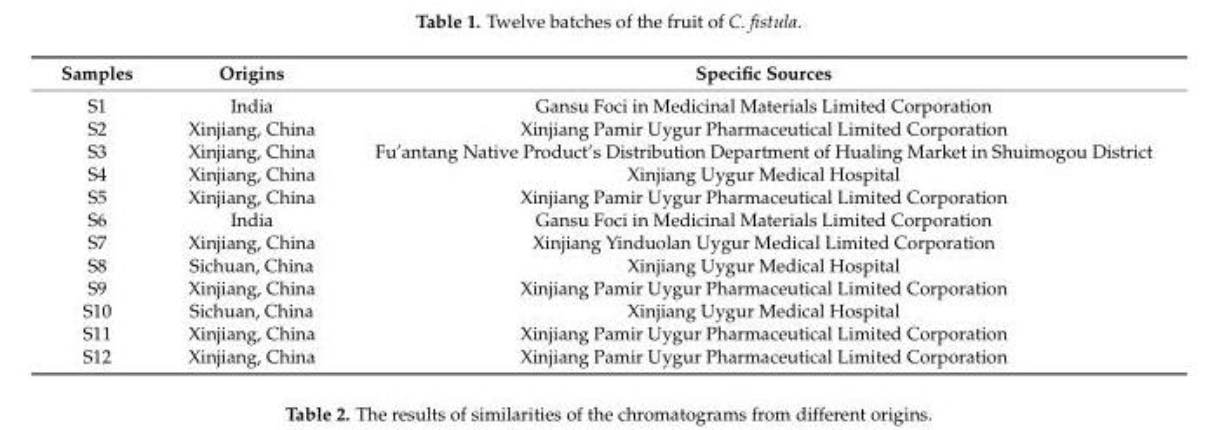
<table><thead><tr><td>Samples</td><td>Origins</td><td>Specific Sources</td></tr></thead><tbody><tr><td>S1</td><td>India</td><td>Gansu Foci in Medicinal Materials Limited Corporation</td></tr><tr><td>S2</td><td>Xinjiang, China</td><td>Xinjiang Pamir Uygur Pharmaceutical Limited Corporation</td></tr><tr><td>S3</td><td>Xinjiang, China</td><td>Fu’antang Native Product’s Distribution Department of Hualing Market in Shuimogou District</td></tr><tr><td>S4</td><td>Xinjiang, China</td><td>Xinjiang Uygur Medical Hospital</td></tr><tr><td>S5</td><td>Xinjiang, China</td><td>Xinjiang Pamir Uygur Pharmaceutical Limited Corporation</td></tr><tr><td>S6</td><td>India</td><td>Gansu Foci in Medicinal Materials Limited Corporation</td></tr><tr><td>S7</td><td>Xinjiang, China</td><td>Xinjiang Yinduolan Uygur Medical Limited Corporation</td></tr><tr><td>S8</td><td>Sichuan, China</td><td>Xinjiang Uygur Medical Hospital</td></tr><tr><td>S9</td><td>Xinjiang, China</td><td>Xinjiang Pamir Uygur Pharmaceutical Limited Corporation</td></tr><tr><td>S10</td><td>Sichuan, China</td><td>Xinjiang Uygur Medical Hospital</td></tr><tr><td>S11</td><td>Xinjiang, China</td><td>Xinjiang Pamir Uygur Pharmaceutical Limited Corporation</td></tr><tr><td>S12</td><td>Xinjiang, China</td><td>Xinjiang Pamir Uygur Pharmaceutical Limited Corporation</td></tr></tbody></table>